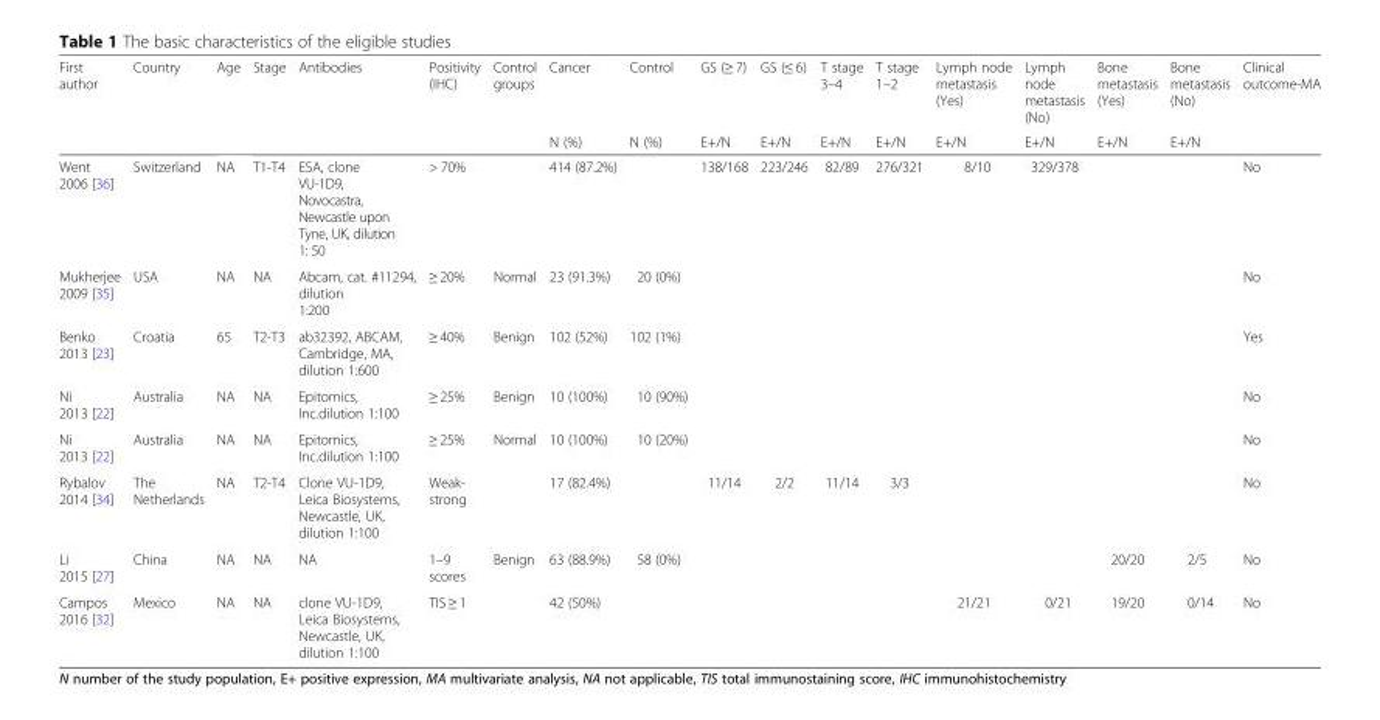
<table><thead><tr><td rowspan="2">First author</td><td rowspan="2">Country</td><td rowspan="2">Age</td><td rowspan="2">Stage</td><td rowspan="2">Antibodies</td><td rowspan="2">Positivity (IHC)</td><td rowspan="2">Control groups</td><td rowspan="2">Cancer N (%)</td><td rowspan="2">Control N (%)</td><td rowspan="2">GS (≥ 7) E+/N</td><td rowspan="2">GS (≤ 6) E+/N</td><td rowspan="2">T stage 3–4 E+/N</td><td rowspan="2">T stage 1–2 E+/N</td><td rowspan="2">Lymph node metastasis (Yes) E+/N</td><td rowspan="2">Lymph node metastasis (No) E+/N</td><td rowspan="2">Bone metastasis (Yes) E+/N</td><td rowspan="2">Bone metastasis (No) E+/N</td><td rowspan="2">Clinical outcome-MA</td></tr><tr></tr></thead><tbody><tr><td>Went 2006 [36]</td><td>Switzerland</td><td>NA</td><td>T1-T4</td><td>ESA, clone VU-1D9, Novocastra, Newcastle upon Tyne, UK, dilution 1: 50</td><td>&gt; 70%</td><td></td><td>414 (87.2%)</td><td></td><td>138/168</td><td>223/246</td><td>82/89</td><td>276/321</td><td>8/10</td><td>329/378</td><td></td><td></td><td>No</td></tr><tr><td>Mukherjee 2009 [35]</td><td>USA</td><td>NA</td><td>NA</td><td>Abcam, cat. #11294, dilution 1:200</td><td>≥ 20%</td><td>Normal</td><td>23 (91.3%)</td><td>20 (0%)</td><td></td><td></td><td></td><td></td><td></td><td></td><td></td><td></td><td>No</td></tr><tr><td>Benko 2013 [23]</td><td>Croatia</td><td>65</td><td>T2-T3</td><td>ab32392, ABCAM, Cambridge, MA, dilution 1:600</td><td>≥ 40%</td><td>Benign</td><td>102 (52%)</td><td>102 (1%)</td><td></td><td></td><td></td><td></td><td></td><td></td><td></td><td></td><td>Yes</td></tr><tr><td>Ni 2013 [22]</td><td>Australia</td><td>NA</td><td>NA</td><td>Epitomics, Inc.dilution 1:100</td><td>≥ 25%</td><td>Benign</td><td>10 (100%)</td><td>10 (90%)</td><td></td><td></td><td></td><td></td><td></td><td></td><td></td><td></td><td>No</td></tr><tr><td>Ni 2013 [22]</td><td>Australia</td><td>NA</td><td>NA</td><td>Epitomics, Inc.dilution 1:100</td><td>≥ 25%</td><td>Normal</td><td>10 (100%)</td><td>10 (20%)</td><td></td><td></td><td></td><td></td><td></td><td></td><td></td><td></td><td>No</td></tr><tr><td>Rybalov 2014 [34]</td><td>The Netherlands</td><td>NA</td><td>T2-T4</td><td>Clone VU-1D9, Leica Biosystems, Newcastle, UK, dilution 1:100</td><td>Weak- strong</td><td></td><td>17 (82.4%)</td><td></td><td>11/14</td><td>2/2</td><td>11/14</td><td>3/3</td><td></td><td></td><td></td><td></td><td>No</td></tr><tr><td>Li 2015 [27]</td><td>China</td><td>NA</td><td>NA</td><td>NA</td><td>1–9 scores</td><td>Benign</td><td>63 (88.9%)</td><td>58 (0%)</td><td></td><td></td><td></td><td></td><td></td><td></td><td>20/20</td><td>2/5</td><td>No</td></tr><tr><td>Campos 2016 [32]</td><td>Mexico</td><td>NA</td><td>NA</td><td>clone VU-1D9, Leica Biosystems, Newcastle, UK, dilution 1:100</td><td>TIS ≥ 1</td><td></td><td>42 (50%)</td><td></td><td></td><td></td><td></td><td></td><td>21/21</td><td>0/21</td><td>19/20</td><td>0/14</td><td>No</td></tr></tbody></table>